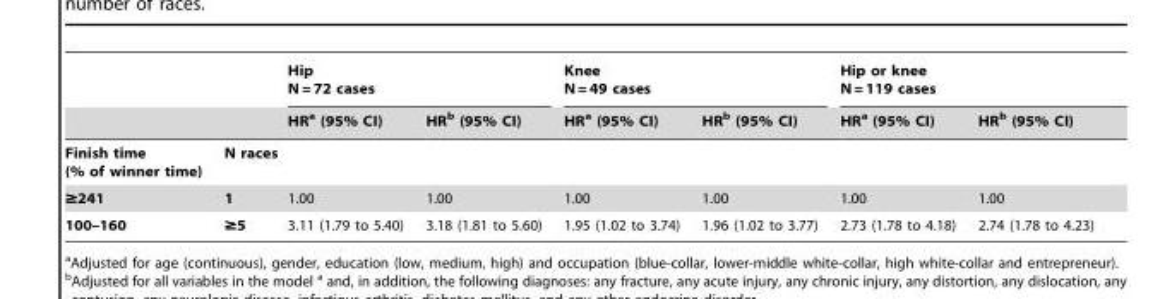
<table><thead><tr><td rowspan="2"></td><td rowspan="2"></td><td colspan="2">Hip N = 72 cases</td><td colspan="2">Knee N = 49 cases</td><td colspan="2">Hip or knee N = 119 cases</td></tr><tr><td>HR<sup>a</sup> (95% CI)</td><td>HR<sup>b</sup> (95% CI)</td><td>HR<sup>a</sup> (95% CI)</td><td>HR<sup>b</sup> (95% CI)</td><td>HR<sup>a</sup> (95% CI)</td><td>HR<sup>b</sup> (95% CI)</td></tr></thead><tbody><tr><td>Finish time (% of winner time)</td><td>N races</td><td></td><td></td><td></td><td></td><td></td><td></td></tr><tr><td>≥241</td><td>1</td><td>1.00</td><td>1.00</td><td>1.00</td><td>1.00</td><td>1.00</td><td>1.00</td></tr><tr><td>100–160</td><td>≥5</td><td>3.11 (1.79 to 5.40)</td><td>3.18 (1.81 to 5.60)</td><td>1.95 (1.02 to 3.74)</td><td>1.96 (1.02 to 3.77)</td><td>2.73 (1.78 to 4.18)</td><td>2.74 (1.78 to 4.23)</td></tr></tbody></table>